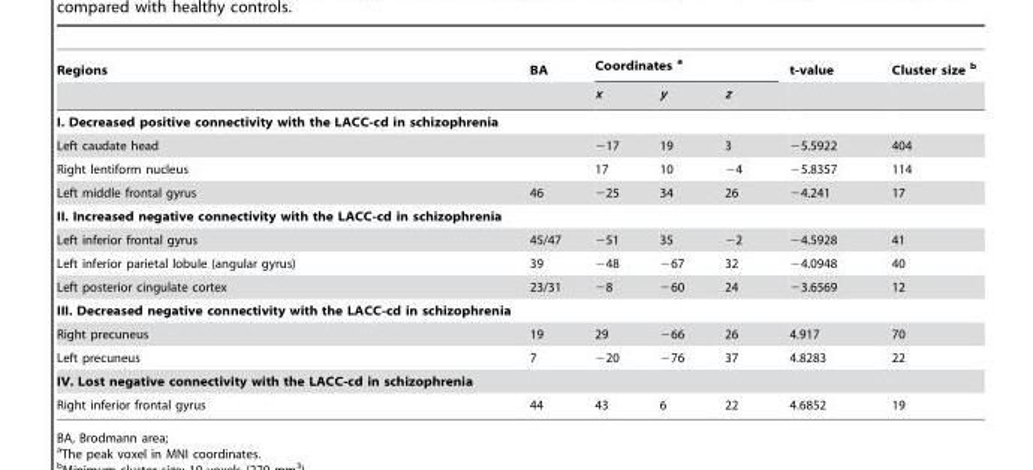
<table><thead><tr><td rowspan="2">Regions</td><td rowspan="2">BA</td><td colspan="3">Coordinates a</td><td rowspan="2">t-value</td><td rowspan="2">Cluster size b</td></tr><tr><td>x</td><td>y</td><td>z</td></tr></thead><tbody><tr><td colspan="7">I. Decreased positive connectivity with the LACC-cd in schizophrenia</td></tr><tr><td>Left caudate head</td><td></td><td>−17</td><td>19</td><td>3</td><td>−5.5922</td><td>404</td></tr><tr><td>Right lentiform nucleus</td><td></td><td>17</td><td>10</td><td>−4</td><td>−5.8357</td><td>114</td></tr><tr><td>Left middle frontal gyrus</td><td>46</td><td>−25</td><td>34</td><td>26</td><td>−4.241</td><td>17</td></tr><tr><td colspan="7">II. Increased negative connectivity with the LACC-cd in schizophrenia</td></tr><tr><td>Left inferior frontal gyrus</td><td>45/47</td><td>−51</td><td>35</td><td>−2</td><td>−4.5928</td><td>41</td></tr><tr><td>Left inferior parietal lobule (angular gyrus)</td><td>39</td><td>−48</td><td>−67</td><td>32</td><td>−4.0948</td><td>40</td></tr><tr><td>Left posterior cingulate cortex</td><td>23/31</td><td>−8</td><td>−60</td><td>24</td><td>−3.6569</td><td>12</td></tr><tr><td colspan="7">III. Decreased negative connectivity with the LACC-cd in schizophrenia</td></tr><tr><td>Right precuneus</td><td>19</td><td>29</td><td>−66</td><td>26</td><td>4.917</td><td>70</td></tr><tr><td>Left precuneus</td><td>7</td><td>−20</td><td>−76</td><td>37</td><td>4.8283</td><td>22</td></tr><tr><td colspan="7">IV. Lost negative connectivity with the LACC-cd in schizophrenia</td></tr><tr><td>Right inferior frontal gyrus</td><td>44</td><td>43</td><td>6</td><td>22</td><td>4.6852</td><td>19</td></tr></tbody></table>